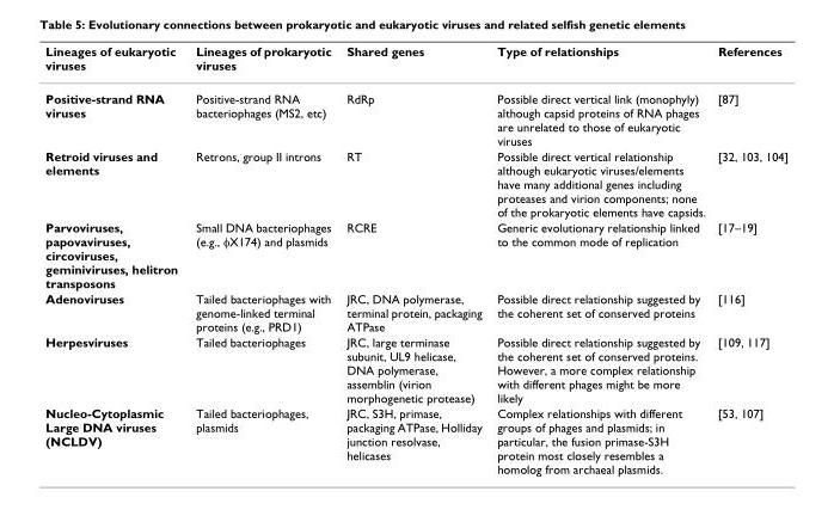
<table><thead><tr><td>Lineages of eukaryotic viruses</td><td>Lineages of prokaryotic viruses</td><td>Shared genes</td><td>Type of relationships</td><td>References</td></tr></thead><tbody><tr><td>Positive-strand RNA viruses</td><td>Positive-strand RNA bacteriophages (MS2, etc)</td><td>RdRp</td><td>Possible direct vertical link (monophyly) although capsid proteins of RNA phages are unrelated to those of eukaryotic viruses</td><td>[87]</td></tr><tr><td>Retroid viruses and elements</td><td>Retrons, group II introns</td><td>RT</td><td>Possible direct vertical relationship although eukaryotic viruses/elements have many additional genes including proteases and virion components; none of the prokaryotic elements have capsids.</td><td>[32, 103, 104]</td></tr><tr><td>Parvoviruses, papovaviruses, circoviruses, geminiviruses, helitron transposons</td><td>Small DNA bacteriophages (e.g., φX174) and plasmids</td><td>RCRE</td><td>Generic evolutionary relationship linked to the common mode of replication</td><td>[17–19]</td></tr><tr><td>Adenoviruses</td><td>Tailed bacteriophages with genome-linked terminal proteins (e.g., PRD1)</td><td>JRC, DNA polymerase, terminal protein, packaging ATPase</td><td>Possible direct relationship suggested by the coherent set of conserved proteins</td><td>[116]</td></tr><tr><td>Herpesviruses</td><td>Tailed bacteriophages</td><td>JRC, large terminase subunit, UL9 helicase, DNA polymerase, assemblin (virion morphogenetic protease)</td><td>Possible direct relationship suggested by the coherent set of conserved proteins. However, a more complex relationship with different phages might be more likely</td><td>[109, 117]</td></tr><tr><td>Nucleo-Cytoplasmic Large DNA viruses (NCLDV)</td><td>Tailed bacteriophages, plasmids</td><td>JRC, S3H, primase, packaging ATPase, Holliday junction resolvase, helicases</td><td>Complex relationships with different groups of phages and plasmids; in particular, the fusion primase-S3H protein most closely resembles a homolog from archaeal plasmids.</td><td>[53, 107]</td></tr></tbody></table>